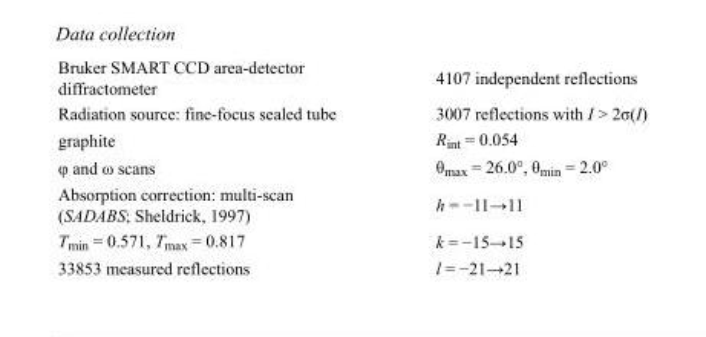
<table><tbody><tr><td>Bruker SMART CCD area-detector diffractometer</td><td>4107 independent reflections</td></tr><tr><td>Radiation source: fine-focus sealed tube</td><td>3007 reflections with I &gt; 2σ(I)</td></tr><tr><td>graphite</td><td>R<sub>int</sub> = 0.054</td></tr><tr><td>φ and ω scans</td><td>θ<sub>max</sub> = 26.0°, θ<sub>min</sub> = 2.0°</td></tr><tr><td>Absorption correction: multi-scan (SADABS; Sheldrick, 1997)</td><td>h = −11→11</td></tr><tr><td>T<sub>min</sub> = 0.571, T<sub>max</sub> = 0.817</td><td>k = −15→15</td></tr><tr><td>33853 measured reflections</td><td>l = −21→21</td></tr></tbody></table>